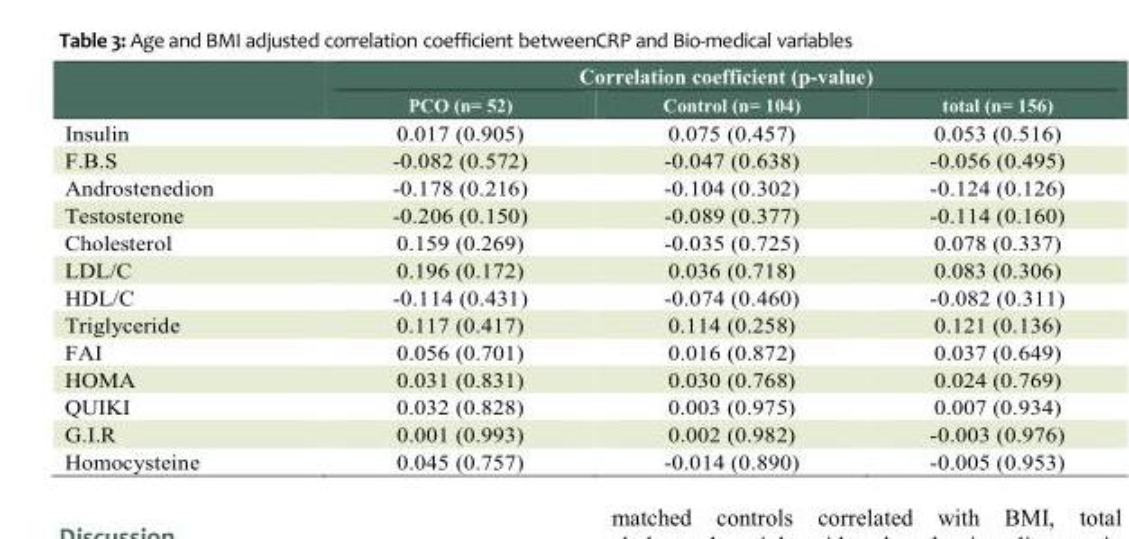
<table><thead><tr><td rowspan="2"></td><td colspan="3">Correlation coefficient (p-value)</td></tr><tr><td>PCO (n= 52)</td><td>Control (n= 104)</td><td>total (n= 156)</td></tr></thead><tbody><tr><td>Insulin</td><td>0.017 (0.905)</td><td>0.075 (0.457)</td><td>0.053 (0.516)</td></tr><tr><td>F.B.S</td><td>-0.082 (0.572)</td><td>-0.047 (0.638)</td><td>-0.056 (0.495)</td></tr><tr><td>Androstenedion</td><td>-0.178 (0.216)</td><td>-0.104 (0.302)</td><td>-0.124 (0.126)</td></tr><tr><td>Testosterone</td><td>-0.206 (0.150)</td><td>-0.089 (0.377)</td><td>-0.114 (0.160)</td></tr><tr><td>Cholesterol</td><td>0.159 (0.269)</td><td>-0.035 (0.725)</td><td>0.078 (0.337)</td></tr><tr><td>LDL/C</td><td>0.196 (0.172)</td><td>0.036 (0.718)</td><td>0.083 (0.306)</td></tr><tr><td>HDL/C</td><td>-0.114 (0.431)</td><td>-0.074 (0.460)</td><td>-0.082 (0.311)</td></tr><tr><td>Triglyceride</td><td>0.117 (0.417)</td><td>0.114 (0.258)</td><td>0.121 (0.136)</td></tr><tr><td>FAI</td><td>0.056 (0.701)</td><td>0.016 (0.872)</td><td>0.037 (0.649)</td></tr><tr><td>HOMA</td><td>0.031 (0.831)</td><td>0.030 (0.768)</td><td>0.024 (0.769)</td></tr><tr><td>QUIKI</td><td>0.032 (0.828)</td><td>0.003 (0.975)</td><td>0.007 (0.934)</td></tr><tr><td>G.I.R</td><td>0.001 (0.993)</td><td>0.002 (0.982)</td><td>-0.003 (0.976)</td></tr><tr><td>Homocysteine</td><td>0.045 (0.757)</td><td>-0.014 (0.890)</td><td>-0.005 (0.953)</td></tr></tbody></table>